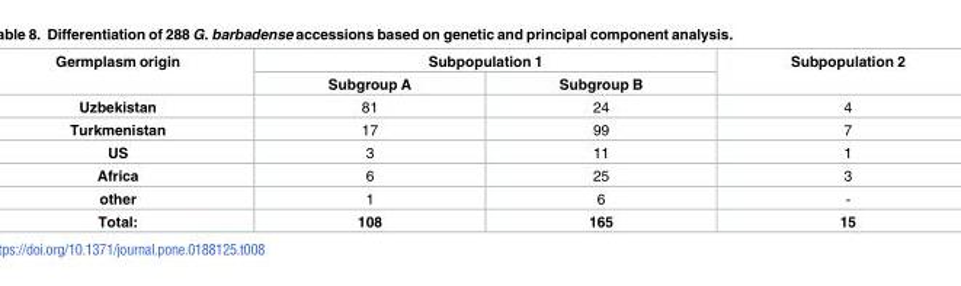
<table><thead><tr><td rowspan="2">Germplasm origin</td><td colspan="2">Subpopulation 1</td><td rowspan="2">Subpopulation 2</td></tr><tr><td>Subgroup A</td><td>Subgroup B</td></tr></thead><tbody><tr><td>Uzbekistan</td><td>81</td><td>24</td><td>4</td></tr><tr><td>Turkmenistan</td><td>17</td><td>99</td><td>7</td></tr><tr><td>US</td><td>3</td><td>11</td><td>1</td></tr><tr><td>Africa</td><td>6</td><td>25</td><td>3</td></tr><tr><td>other</td><td>1</td><td>6</td><td>-</td></tr><tr><td>Total:</td><td>108</td><td>165</td><td>15</td></tr></tbody></table>